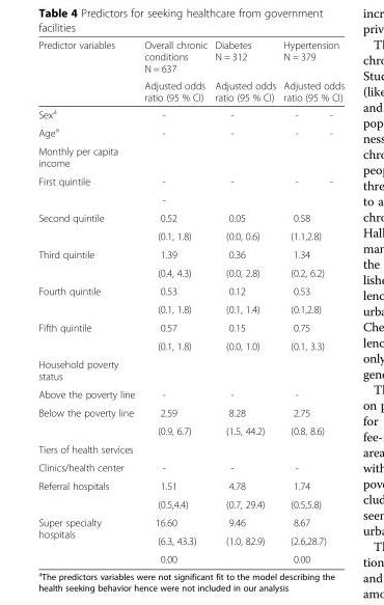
<table><thead><tr><td rowspan="3">Predictor variables Sex<sup>a</sup></td><td rowspan="3">Overall chronic conditions N = 637 Adjusted odds ratio (95 % CI) -</td><td rowspan="3">Diabetes N = 312 Adjusted odds ratio (95 % CI) -</td><td rowspan="2" colspan="2">Hypertension N = 379 Adjusted odds ratio (95 % CI)</td></tr><tr></tr><tr><td>-</td><td>-</td></tr></thead><tbody><tr><td>Age<sup>a</sup></td><td>-</td><td>-</td><td>-</td><td>-</td></tr><tr><td colspan="5">Monthly per capita income</td></tr><tr><td rowspan="2">First quintile</td><td>-</td><td rowspan="2">-</td><td rowspan="2">-</td><td rowspan="2">-</td></tr><tr><td>-</td></tr><tr><td rowspan="2">Second quintile</td><td>0.52</td><td>0.05</td><td colspan="2">0.58</td></tr><tr><td>(0.1, 1.8)</td><td>(0.0, 0.6)</td><td colspan="2">(1.1,2.8)</td></tr><tr><td rowspan="2">Third quintile</td><td>1.39</td><td>0.36</td><td colspan="2">1.34</td></tr><tr><td>(0.4, 4.3)</td><td>(0.0, 2.8)</td><td colspan="2">(0.2, 6.2)</td></tr><tr><td rowspan="2">Fourth quintile</td><td>0.53</td><td>0.12</td><td colspan="2">0.53</td></tr><tr><td>(0.1, 1.8)</td><td>(0.1, 1.4)</td><td colspan="2">(0.1,2.8)</td></tr><tr><td rowspan="2">Fifth quintile</td><td>0.57</td><td>0.15</td><td colspan="2">0.75</td></tr><tr><td>(0.1, 1.8)</td><td>(0.0, 1.0)</td><td colspan="2">(0.1, 3.3)</td></tr><tr><td colspan="5">Household poverty status</td></tr><tr><td>Above the poverty line</td><td>-</td><td>-</td><td colspan="2">-</td></tr><tr><td rowspan="2">Below the poverty line</td><td>2.59</td><td>8.28</td><td colspan="2">2.75</td></tr><tr><td>(0.9, 6.7)</td><td>(1.5, 44.2)</td><td colspan="2">(0.8, 8.6)</td></tr><tr><td colspan="5">Tiers of health services</td></tr><tr><td>Clinics/health center</td><td>-</td><td>-</td><td colspan="2">-</td></tr><tr><td rowspan="2">Referral hospitals</td><td>1.51</td><td>4.78</td><td colspan="2">1.74</td></tr><tr><td>(0.5,4.4)</td><td>(0.7, 29.4)</td><td colspan="2">(0.5,5.8)</td></tr><tr><td rowspan="3">Super specialty hospitals</td><td>16.60</td><td>9.46</td><td colspan="2">8.67</td></tr><tr><td>(6.3, 43.3)</td><td>(1.0, 82.9)</td><td colspan="2">(2.6,28.7)</td></tr><tr><td>0.00</td><td></td><td colspan="2">0.00</td></tr></tbody></table>